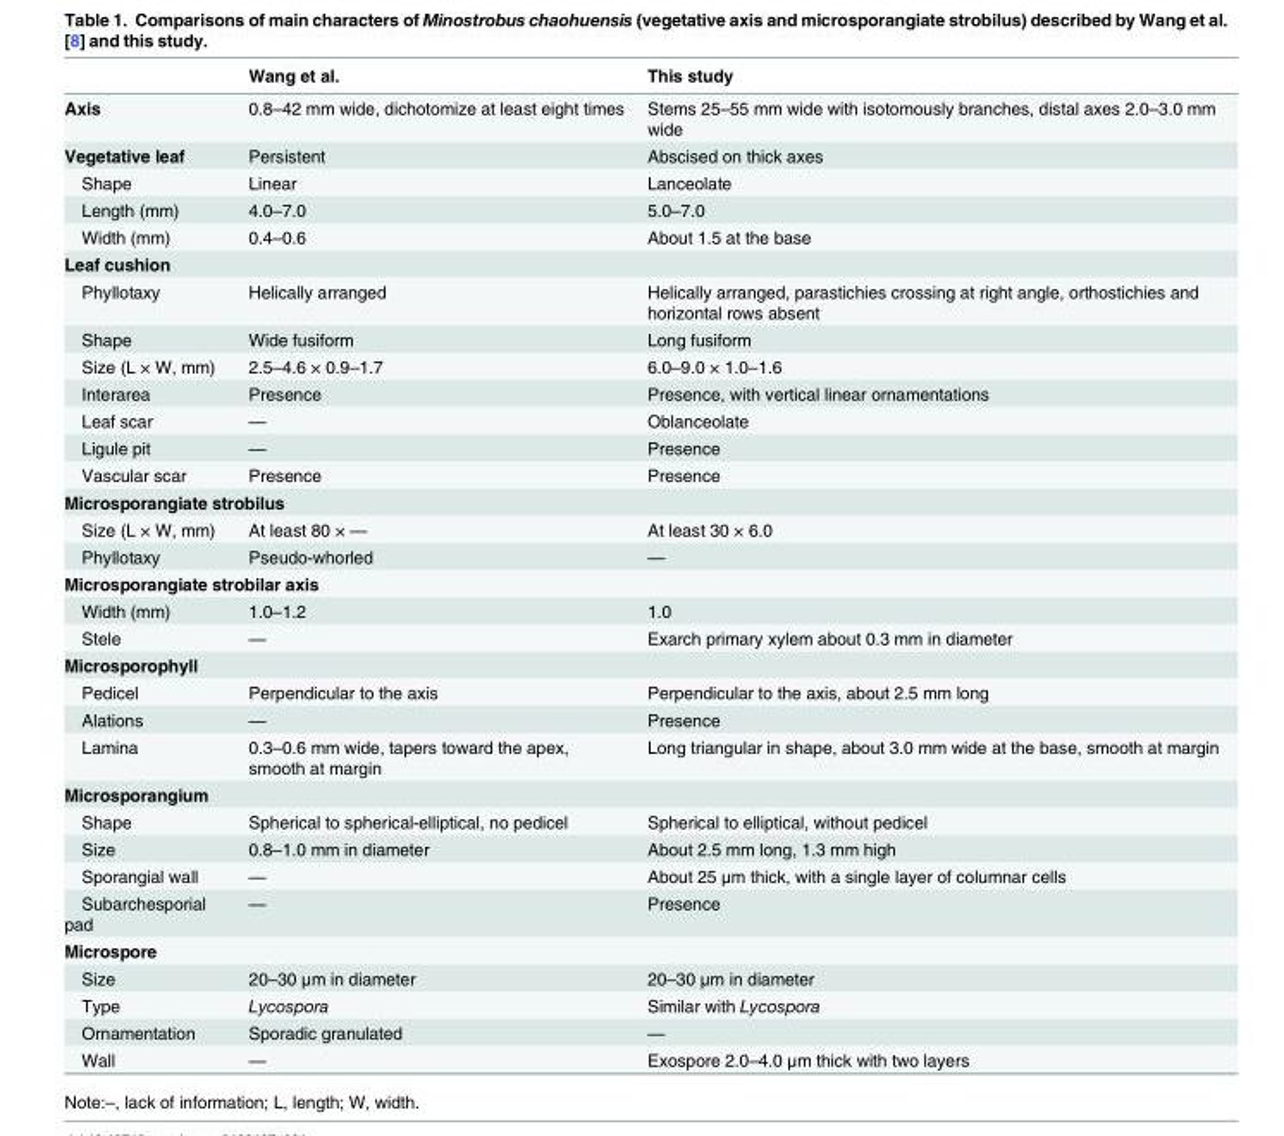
<table><thead><tr><td></td><td>Wang et al.</td><td>This study</td></tr></thead><tbody><tr><td>Axis</td><td>0.8–42 mm wide, dichotomize at least eight times</td><td>Stems 25–55 mm wide with isotomously branches, distal axes 2.0–3.0 mm wide</td></tr><tr><td>Vegetative leaf</td><td>Persistent</td><td>Abscised on thick axes</td></tr><tr><td>Shape</td><td>Linear</td><td>Lanceolate</td></tr><tr><td>Length (mm)</td><td>4.0–7.0</td><td>5.0–7.0</td></tr><tr><td>Width (mm)</td><td>0.4–0.6</td><td>About 1.5 at the base</td></tr><tr><td colspan="3">Leaf cushion</td></tr><tr><td>Phyllotaxy</td><td>Helically arranged</td><td>Helically arranged, parastichies crossing at right angle, orthostichies and horizontal rows absent</td></tr><tr><td>Shape</td><td>Wide fusiform</td><td>Long fusiform</td></tr><tr><td>Size (L × W, mm)</td><td>2.5–4.6 × 0.9–1.7</td><td>6.0–9.0 × 1.0–1.6</td></tr><tr><td>Interarea</td><td>Presence</td><td>Presence, with vertical linear ornamentations</td></tr><tr><td>Leaf scar</td><td>—</td><td>Oblanceolate</td></tr><tr><td>Ligule pit</td><td>—</td><td>Presence</td></tr><tr><td>Vascular scar</td><td>Presence</td><td>Presence</td></tr><tr><td colspan="3">Microsporangiate strobilus</td></tr><tr><td>Size (L × W, mm)</td><td>At least 80 × —</td><td>At least 30 × 6.0</td></tr><tr><td>Phyllotaxy</td><td>Pseudo-whorled</td><td>—</td></tr><tr><td colspan="3">Microsporangiate strobilar axis</td></tr><tr><td>Width (mm)</td><td>1.0–1.2</td><td>1.0</td></tr><tr><td>Stele</td><td>—</td><td>Exarch primary xylem about 0.3 mm in diameter</td></tr><tr><td colspan="3">Microsporophyll</td></tr><tr><td>Pedicel</td><td>Perpendicular to the axis</td><td>Perpendicular to the axis, about 2.5 mm long</td></tr><tr><td>Alations</td><td>—</td><td>Presence</td></tr><tr><td>Lamina</td><td>0.3–0.6 mm wide, tapers toward the apex, smooth at margin</td><td>Long triangular in shape, about 3.0 mm wide at the base, smooth at margin</td></tr><tr><td colspan="3">Microsporangium</td></tr><tr><td>Shape</td><td>Spherical to spherical-elliptical, no pedicel</td><td>Spherical to elliptical, without pedicel</td></tr><tr><td>Size</td><td>0.8–1.0 mm in diameter</td><td>About 2.5 mm long, 1.3 mm high</td></tr><tr><td>Sporangial wall</td><td>—</td><td>About 25 μm thick, with a single layer of columnar cells</td></tr><tr><td>Subarchesporial pad</td><td>—</td><td>Presence</td></tr><tr><td colspan="3">Microspore</td></tr><tr><td>Size</td><td>20–30 μm in diameter</td><td>20–30 μm in diameter</td></tr><tr><td>Type</td><td>Lycospora</td><td>Similar with Lycospora</td></tr><tr><td>Ornamentation</td><td>Sporadic granulated</td><td>—</td></tr><tr><td>Wall</td><td>—</td><td>Exospore 2.0–4.0 μm thick with two layers</td></tr></tbody></table>